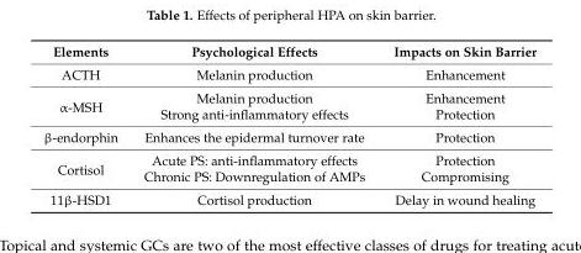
<table><thead><tr><td>Elements</td><td>Psychological Effects</td><td>Impacts on Skin Barrier</td></tr></thead><tbody><tr><td>ACTH</td><td>Melanin production</td><td>Enhancement</td></tr><tr><td rowspan="2">α-MSH</td><td>Melanin production</td><td>Enhancement</td></tr><tr><td>Strong anti-inflammatory effects</td><td>Protection</td></tr><tr><td>β-endorphin</td><td>Enhances the epidermal turnover rate</td><td>Protection</td></tr><tr><td rowspan="2">Cortisol</td><td>Acute PS: anti-inflammatory effects</td><td>Protection</td></tr><tr><td>Chronic PS: Downregulation of AMPs</td><td>Compromising</td></tr><tr><td>11β-HSD1</td><td>Cortisol production</td><td>Delay in wound healing</td></tr></tbody></table>